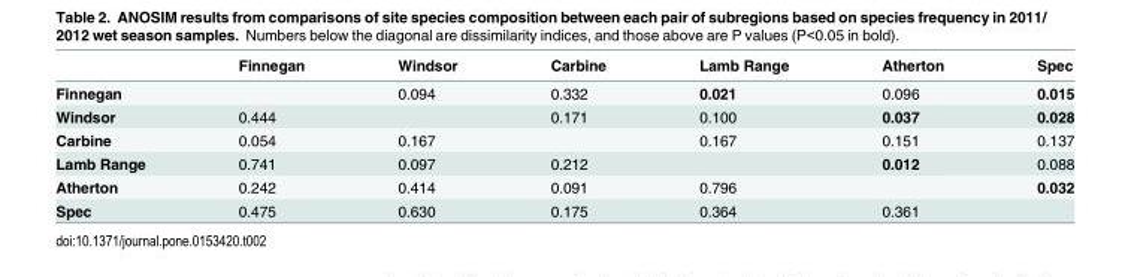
<table><thead><tr><td></td><td>Finnegan</td><td>Windsor</td><td>Carbine</td><td>Lamb Range</td><td>Atherton</td><td>Spec</td></tr></thead><tbody><tr><td>Finnegan</td><td></td><td>0.094</td><td>0.332</td><td>0.021</td><td>0.096</td><td>0.015</td></tr><tr><td>Windsor</td><td>0.444</td><td></td><td>0.171</td><td>0.100</td><td>0.037</td><td>0.028</td></tr><tr><td>Carbine</td><td>0.054</td><td>0.167</td><td></td><td>0.167</td><td>0.151</td><td>0.137</td></tr><tr><td>Lamb Range</td><td>0.741</td><td>0.097</td><td>0.212</td><td></td><td>0.012</td><td>0.088</td></tr><tr><td>Atherton</td><td>0.242</td><td>0.414</td><td>0.091</td><td>0.796</td><td></td><td>0.032</td></tr><tr><td>Spec</td><td>0.475</td><td>0.630</td><td>0.175</td><td>0.364</td><td>0.361</td><td></td></tr></tbody></table>